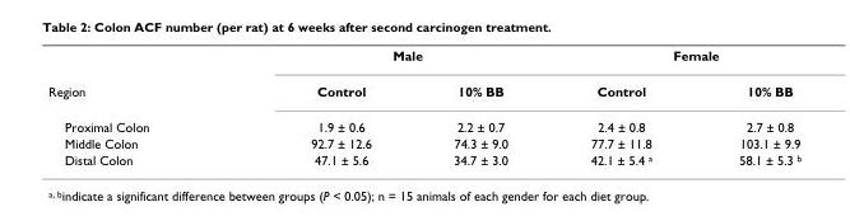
<table><thead><tr><td rowspan="2">Region</td><td colspan="2">Male</td><td colspan="2">Female</td></tr><tr><td>Control</td><td>10% BB</td><td>Control</td><td>10% BB</td></tr></thead><tbody><tr><td>Proximal Colon</td><td>1.9 ± 0.6</td><td>2.2 ± 0.7</td><td>2.4 ± 0.8</td><td>2.7 ± 0.8</td></tr><tr><td>Middle Colon</td><td>92.7 ± 12.6</td><td>74.3 ± 9.0</td><td>77.7 ± 11.8</td><td>103.1 ± 9.9</td></tr><tr><td>Distal Colon</td><td>47.1 ± 5.6</td><td>34.7 ± 3.0</td><td>42.1 ± 5.4 <sup>a</sup></td><td>58.1 ± 5.3 <sup>b</sup></td></tr></tbody></table>